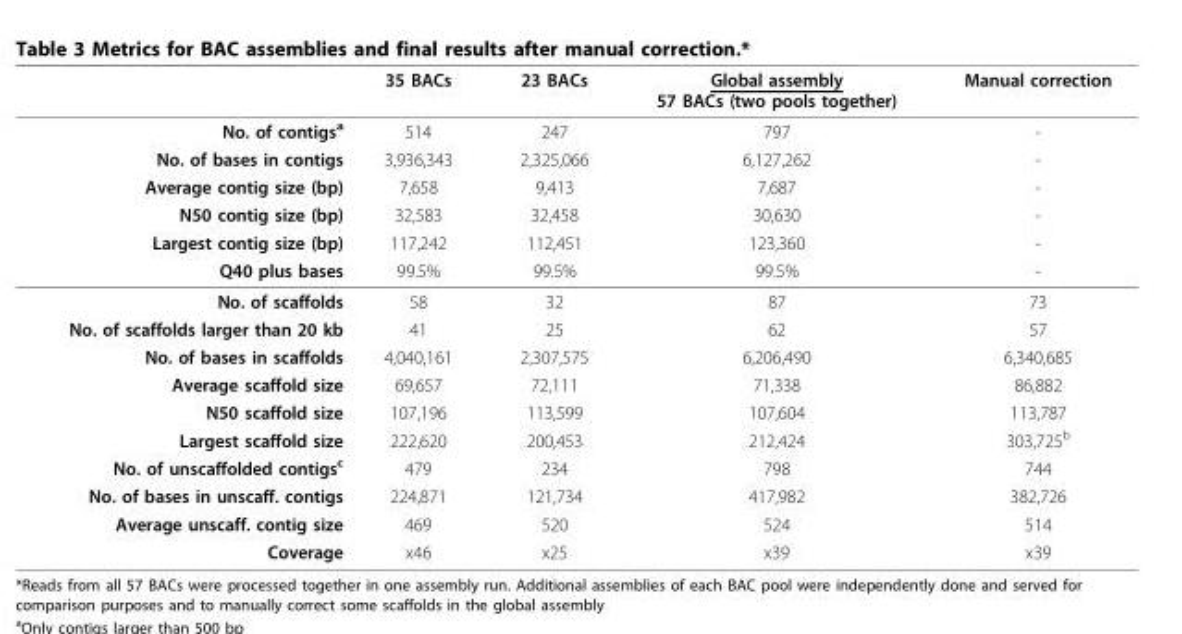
<table><thead><tr><td></td><td>35 BACs</td><td>23 BACs</td><td>Global assembly 57 BACs (two pools together)</td><td>Manual correction</td></tr></thead><tbody><tr><td>No. of contigs<sup>a</sup></td><td>514</td><td>247</td><td>797</td><td>-</td></tr><tr><td>No. of bases in contigs</td><td>3,936,343</td><td>2,325,066</td><td>6,127,262</td><td>-</td></tr><tr><td>Average contig size (bp)</td><td>7,658</td><td>9,413</td><td>7,687</td><td>-</td></tr><tr><td>N50 contig size (bp)</td><td>32,583</td><td>32,458</td><td>30,630</td><td>-</td></tr><tr><td>Largest contig size (bp)</td><td>117,242</td><td>112,451</td><td>123,360</td><td>-</td></tr><tr><td>Q40 plus bases</td><td>99.5%</td><td>99.5%</td><td>99.5%</td><td>-</td></tr><tr><td>No. of scaffolds</td><td>58</td><td>32</td><td>87</td><td>73</td></tr><tr><td>No. of scaffolds larger than 20 kb</td><td>41</td><td>25</td><td>62</td><td>57</td></tr><tr><td>No. of bases in scaffolds</td><td>4,040,161</td><td>2,307,575</td><td>6,206,490</td><td>6,340,685</td></tr><tr><td>Average scaffold size</td><td>69,657</td><td>72,111</td><td>71,338</td><td>86,882</td></tr><tr><td>N50 scaffold size</td><td>107,196</td><td>113,599</td><td>107,604</td><td>113,787</td></tr><tr><td>Largest scaffold size</td><td>222,620</td><td>200,453</td><td>212,424</td><td>303,725<sup>b</sup></td></tr><tr><td>No. of unscaffolded contigs<sup>c</sup></td><td>479</td><td>234</td><td>798</td><td>744</td></tr><tr><td>No. of bases in unscaff. contigs</td><td>224,871</td><td>121,734</td><td>417,982</td><td>382,726</td></tr><tr><td>Average unscaff. contig size</td><td>469</td><td>520</td><td>524</td><td>514</td></tr><tr><td>Coverage</td><td>x46</td><td>x25</td><td>x39</td><td>x39</td></tr></tbody></table>